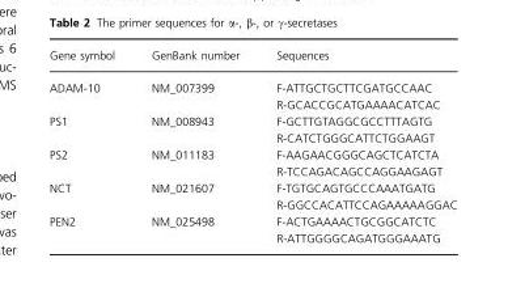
<table><thead><tr><td>Gene symbol</td><td>GenBank number</td><td>Sequences</td></tr></thead><tbody><tr><td>ADAM-10</td><td>NM_007399</td><td>F-ATTGCTGCTTCGATGCCAAC R-GCACCGCATGAAAACATCAC</td></tr><tr><td>PS1</td><td>NM_008943</td><td>F-GCTTGTAGGCGCCTTTAGTG R-CATCTGGGCATTCTGGAAGT</td></tr><tr><td>PS2</td><td>NM_011183</td><td>F-AAGAACGGGCAGCTCATCTA R-TCCAGACAGCCAGGAAGAGT</td></tr><tr><td>NCT</td><td>NM_021607</td><td>F-TGTGCAGTGCCCAAATGATG R-GGCCACATTCCAGAAAAAGGAC</td></tr><tr><td>PEN2</td><td>NM_025498</td><td>F-ACTGAAAACTGCGGCATCTC R-ATTGGGGCAGATGGGAAATG</td></tr></tbody></table>